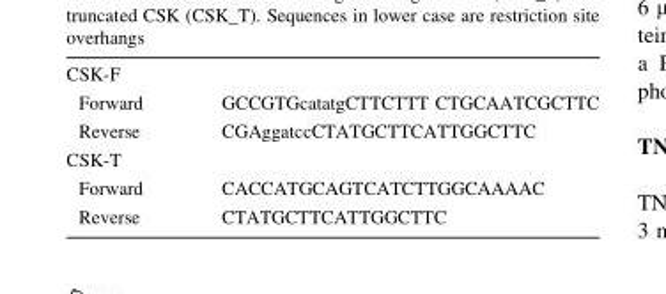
<table><tbody><tr><td colspan="2">CSK-F</td></tr><tr><td>Forward</td><td>GCCGTGcatatgCTTCTTT CTGCAATCGCTTC</td></tr><tr><td>Reverse</td><td>CGAggatccCTATGCTTCATTGGCTTC</td></tr><tr><td colspan="2">CSK-T</td></tr><tr><td>Forward</td><td>CACCATGCAGTCATCTTGGCAAAAC</td></tr><tr><td>Reverse</td><td>CTATGCTTCATTGGCTTC</td></tr></tbody></table>